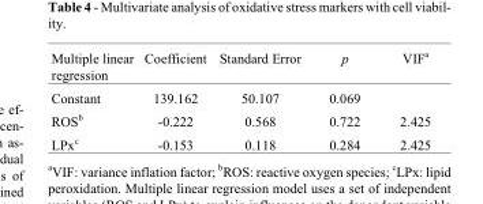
<table><thead><tr><td>Multiple linear regression</td><td>Coefficient</td><td>Standard Error</td><td>p</td><td>VIF<sup>a</sup></td></tr></thead><tbody><tr><td>Constant</td><td>139.162</td><td>50.107</td><td>0.069</td><td></td></tr><tr><td>ROS<sup>b</sup></td><td>-0.222</td><td>0.568</td><td>0.722</td><td>2.425</td></tr><tr><td>LPx<sup>c</sup></td><td>-0.153</td><td>0.118</td><td>0.284</td><td>2.425</td></tr></tbody></table>